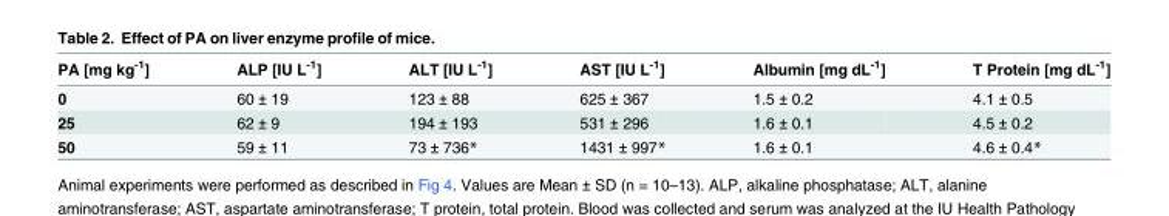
<table><thead><tr><td>PA [mg kg<sup>-1</sup>]</td><td>ALP [IU L<sup>-1</sup>]</td><td>ALT [IU L<sup>-1</sup>]</td><td>AST [IU L<sup>-1</sup>]</td><td>Albumin [mg dL<sup>-1</sup>]</td><td>T Protein [mg dL<sup>-1</sup>]</td></tr></thead><tbody><tr><td>0</td><td>60 ± 19</td><td>123 ± 88</td><td>625 ± 367</td><td>1.5 ± 0.2</td><td>4.1 ± 0.5</td></tr><tr><td>25</td><td>62 ± 9</td><td>194 ± 193</td><td>531 ± 296</td><td>1.6 ± 0.1</td><td>4.5 ± 0.2</td></tr><tr><td>50</td><td>59 ± 11</td><td>73 ± 736*</td><td>1431 ± 997*</td><td>1.6 ± 0.1</td><td>4.6 ± 0.4*</td></tr></tbody></table>